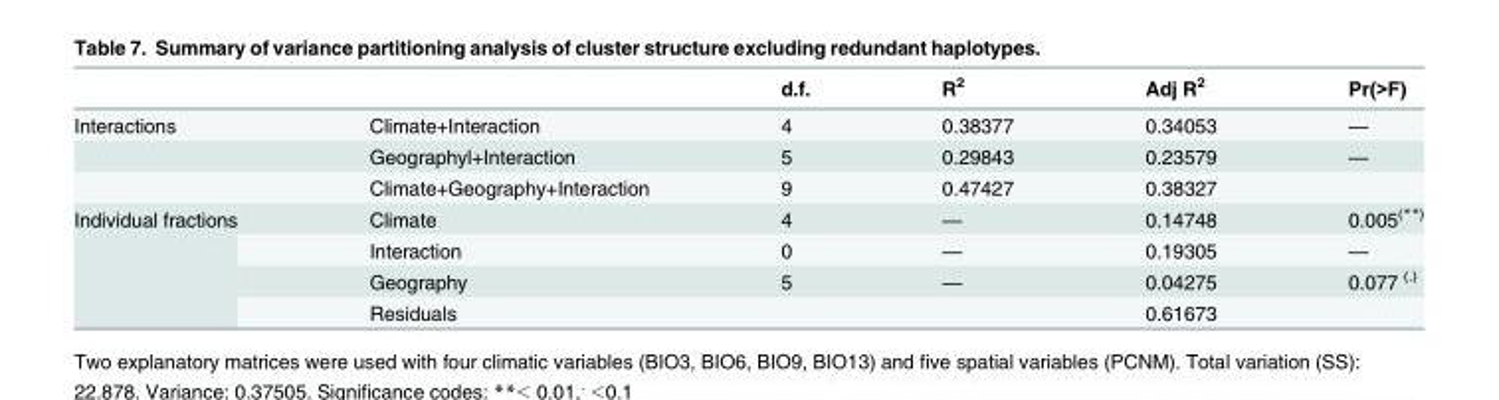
<table><thead><tr><td></td><td></td><td>d.f.</td><td>R<sup>2</sup></td><td>Adj R<sup>2</sup></td><td>Pr(&gt;F)</td></tr></thead><tbody><tr><td rowspan="3">Interactions</td><td>Climate+Interaction</td><td>4</td><td>0.38377</td><td>0.34053</td><td>—</td></tr><tr><td>Geographyl+Interaction</td><td>5</td><td>0.29843</td><td>0.23579</td><td>—</td></tr><tr><td>Climate+Geography+Interaction</td><td>9</td><td>0.47427</td><td>0.38327</td><td></td></tr><tr><td rowspan="4">Individual fractions</td><td>Climate</td><td>4</td><td>—</td><td>0.14748</td><td>0.005<sup>(**)</sup></td></tr><tr><td>Interaction</td><td>0</td><td>—</td><td>0.19305</td><td>—</td></tr><tr><td>Geography</td><td>5</td><td>—</td><td>0.04275</td><td>0.077 <sup>(.)</sup></td></tr><tr><td>Residuals</td><td></td><td></td><td>0.61673</td><td></td></tr></tbody></table>